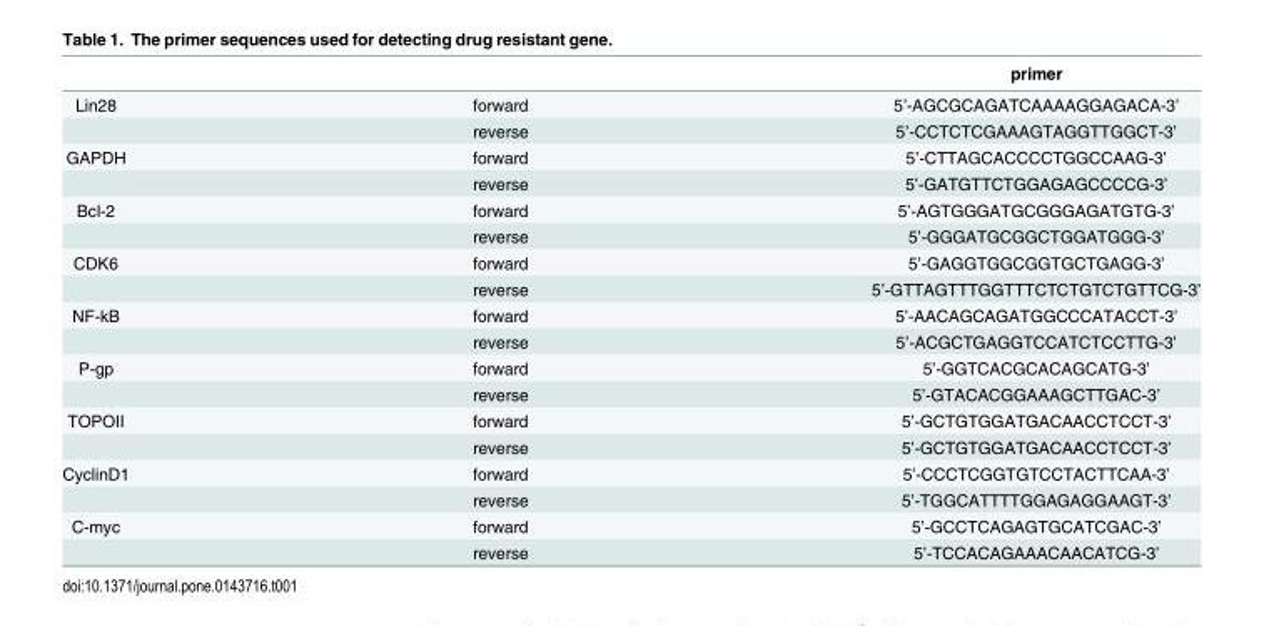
<table><thead><tr><td></td><td></td><td>primer</td></tr></thead><tbody><tr><td rowspan="2">Lin28</td><td>forward</td><td>5’-AGCGCAGATCAAAAGGAGACA-3’</td></tr><tr><td>reverse</td><td>5’-CCTCTCGAAAGTAGGTTGGCT-3’</td></tr><tr><td rowspan="2">GAPDH</td><td>forward</td><td>5’-CTTAGCACCCCTGGCCAAG-3’</td></tr><tr><td>reverse</td><td>5’-GATGTTCTGGAGAGCCCCG-3’</td></tr><tr><td rowspan="2">Bcl-2</td><td>forward</td><td>5’-AGTGGGATGCGGGAGATGTG-3’</td></tr><tr><td>reverse</td><td>5’-GGGATGCGGCTGGATGGG-3’</td></tr><tr><td rowspan="2">CDK6</td><td>forward</td><td>5’-GAGGTGGCGGTGCTGAGG-3’</td></tr><tr><td>reverse</td><td>5’-GTTAGTTTGGTTTCTCTGTCTGTTCG-3’</td></tr><tr><td rowspan="2">NF-kB</td><td>forward</td><td>5’-AACAGCAGATGGCCCATACCT-3’</td></tr><tr><td>reverse</td><td>5’-ACGCTGAGGTCCATCTCCTTG-3’</td></tr><tr><td rowspan="2">P-gp</td><td>forward</td><td>5’-GGTCACGCACAGCATG-3’</td></tr><tr><td>reverse</td><td>5’-GTACACGGAAAGCTTGAC-3’</td></tr><tr><td rowspan="2">TOPOII</td><td>forward</td><td>5’-GCTGTGGATGACAACCTCCT-3’</td></tr><tr><td>reverse</td><td>5’-GCTGTGGATGACAACCTCCT-3’</td></tr><tr><td rowspan="2">CyclinD1</td><td>forward</td><td>5’-CCCTCGGTGTCCTACTTCAA-3’</td></tr><tr><td>reverse</td><td>5’-TGGCATTTTGGAGAGGAAGT-3’</td></tr><tr><td rowspan="2">C-myc</td><td>forward</td><td>5’-GCCTCAGAGTGCATCGAC-3’</td></tr><tr><td>reverse</td><td>5’-TCCACAGAAACAACATCG-3’</td></tr></tbody></table>